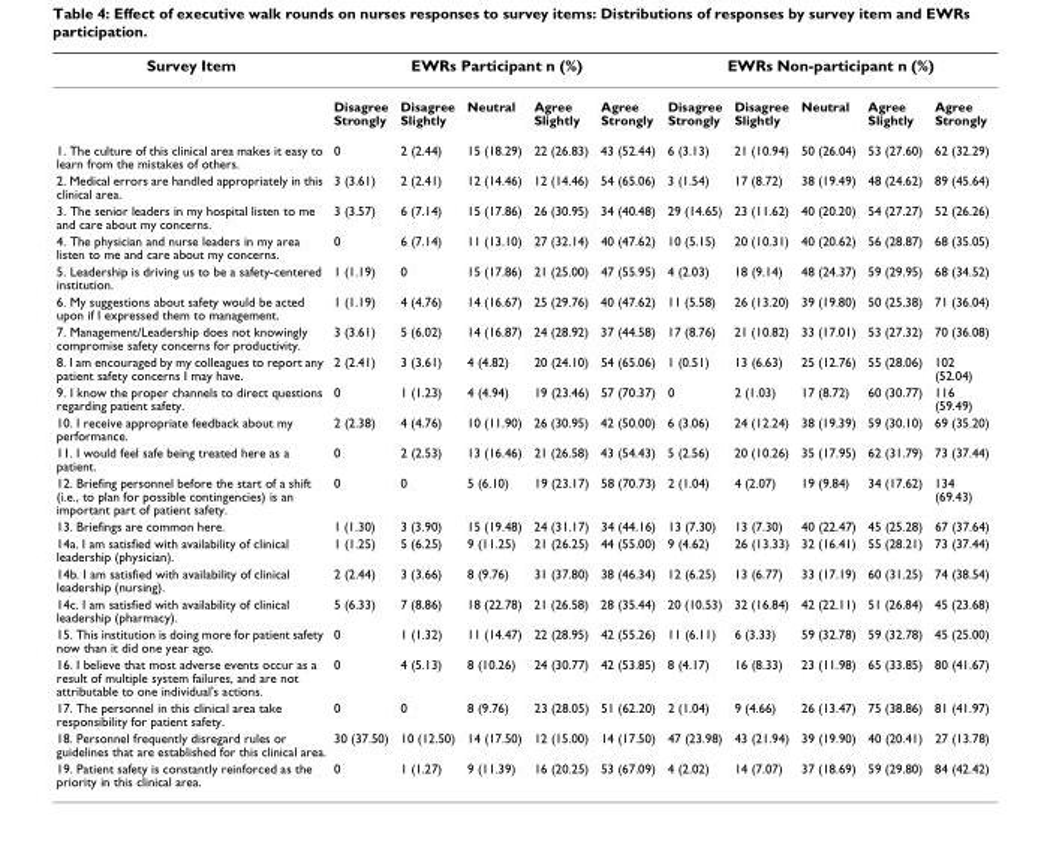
<table><thead><tr><td rowspan="2">Survey Item</td><td colspan="5">EWRs Participant n (%)</td><td colspan="5">EWRs Non-participant n (%)</td></tr><tr><td>Disagree Strongly</td><td>Disagree Slightly</td><td>Neutral</td><td>Agree Slightly</td><td>Agree Strongly</td><td>Disagree Strongly</td><td>Disagree Slightly</td><td>Neutral</td><td>Agree Slightly</td><td>Agree Strongly</td></tr></thead><tbody><tr><td>1. The culture of this clinical area makes it easy to learn from the mistakes of others.</td><td>0</td><td>2 (2.44)</td><td>15 (18.29)</td><td>22 (26.83)</td><td>43 (52.44)</td><td>6 (3.13)</td><td>21 (10.94)</td><td>50 (26.04)</td><td>53 (27.60)</td><td>62 (32.29)</td></tr><tr><td>2. Medical errors are handled appropriately in this clinical area.</td><td>3 (3.61)</td><td>2 (2.41)</td><td>12 (14.46)</td><td>12 (14.46)</td><td>54 (65.06)</td><td>3 (1.54)</td><td>17 (8.72)</td><td>38 (19.49)</td><td>48 (24.62)</td><td>89 (45.64)</td></tr><tr><td>3. The senior leaders in my hospital listen to me and care about my concerns.</td><td>3 (3.57)</td><td>6 (7.14)</td><td>15 (17.86)</td><td>26 (30.95)</td><td>34 (40.48)</td><td>29 (14.65)</td><td>23 (11.62)</td><td>40 (20.20)</td><td>54 (27.27)</td><td>52 (26.26)</td></tr><tr><td>4. The physician and nurse leaders in my area listen to me and care about my concerns.</td><td>0</td><td>6 (7.14)</td><td>11 (13.10)</td><td>27 (32.14)</td><td>40 (47.62)</td><td>10 (5.15)</td><td>20 (10.31)</td><td>40 (20.62)</td><td>56 (28.87)</td><td>68 (35.05)</td></tr><tr><td>5. Leadership is driving us to be a safety-centered institution.</td><td>1 (1.19)</td><td>0</td><td>15 (17.86)</td><td>21 (25.00)</td><td>47 (55.95)</td><td>4 (2.03)</td><td>18 (9.14)</td><td>48 (24.37)</td><td>59 (29.95)</td><td>68 (34.52)</td></tr><tr><td>6. My suggestions about safety would be acted upon if I expressed them to management.</td><td>1 (1.19)</td><td>4 (4.76)</td><td>14 (16.67)</td><td>25 (29.76)</td><td>40 (47.62)</td><td>11 (5.58)</td><td>26 (13.20)</td><td>39 (19.80)</td><td>50 (25.38)</td><td>71 (36.04)</td></tr><tr><td>7. Management/Leadership does not knowingly compromise safety concerns for productivity.</td><td>3 (3.61)</td><td>5 (6.02)</td><td>14 (16.87)</td><td>24 (28.92)</td><td>37 (44.58)</td><td>17 (8.76)</td><td>21 (10.82)</td><td>33 (17.01)</td><td>53 (27.32)</td><td>70 (36.08)</td></tr><tr><td>8. I am encouraged by my colleagues to report any patient safety concerns I may have.</td><td>2 (2.41)</td><td>3 (3.61)</td><td>4 (4.82)</td><td>20 (24.10)</td><td>54 (65.06)</td><td>1 (0.51)</td><td>13 (6.63)</td><td>25 (12.76)</td><td>55 (28.06)</td><td>102 (52.04)</td></tr><tr><td>9. I know the proper channels to direct questions regarding patient safety.</td><td>0</td><td>1 (1.23)</td><td>4 (4.94)</td><td>19 (23.46)</td><td>57 (70.37)</td><td>0</td><td>2 (1.03)</td><td>17 (8.72)</td><td>60 (30.77)</td><td>116 (59.49)</td></tr><tr><td>10. I receive appropriate feedback about my performance.</td><td>2 (2.38)</td><td>4 (4.76)</td><td>10 (11.90)</td><td>26 (30.95)</td><td>42 (50.00)</td><td>6 (3.06)</td><td>24 (12.24)</td><td>38 (19.39)</td><td>59 (30.10)</td><td>69 (35.20)</td></tr><tr><td>11. I would feel safe being treated here as a patient.</td><td>0</td><td>2 (2.53)</td><td>13 (16.46)</td><td>21 (26.58)</td><td>43 (54.43)</td><td>5 (2.56)</td><td>20 (10.26)</td><td>35 (17.95)</td><td>62 (31.79)</td><td>73 (37.44)</td></tr><tr><td>12. Briefing personnel before the start of a shift (i.e., to plan for possible contingencies) is an important part of patient safety.</td><td>0</td><td>0</td><td>5 (6.10)</td><td>19 (23.17)</td><td>58 (70.73)</td><td>2 (1.04)</td><td>4 (2.07)</td><td>19 (9.84)</td><td>34 (17.62)</td><td>134 (69.43)</td></tr><tr><td>13. Briefings are common here.</td><td>1 (1.30)</td><td>3 (3.90)</td><td>15 (19.48)</td><td>24 (31.17)</td><td>34 (44.16)</td><td>13 (7.30)</td><td>13 (7.30)</td><td>40 (22.47)</td><td>45 (25.28)</td><td>67 (37.64)</td></tr><tr><td>14a. I am satisfied with availability of clinical leadership (physician).</td><td>1 (1.25)</td><td>5 (6.25)</td><td>9 (11.25)</td><td>21 (26.25)</td><td>44 (55.00)</td><td>9 (4.62)</td><td>26 (13.33)</td><td>32 (16.41)</td><td>55 (28.21)</td><td>73 (37.44)</td></tr><tr><td>14b. I am satisfied with availability of clinical leadership (nursing).</td><td>2 (2.44)</td><td>3 (3.66)</td><td>8 (9.76)</td><td>31 (37.80)</td><td>38 (46.34)</td><td>12 (6.25)</td><td>13 (6.77)</td><td>33 (17.19)</td><td>60 (31.25)</td><td>74 (38.54)</td></tr><tr><td>14c. I am satisfied with availability of clinical leadership (pharmacy).</td><td>5 (6.33)</td><td>7 (8.86)</td><td>18 (22.78)</td><td>21 (26.58)</td><td>28 (35.44)</td><td>20 (10.53)</td><td>32 (16.84)</td><td>42 (22.11)</td><td>51 (26.84)</td><td>45 (23.68)</td></tr><tr><td>15. This institution is doing more for patient safety now than it did one year ago.</td><td>0</td><td>1 (1.32)</td><td>11 (14.47)</td><td>22 (28.95)</td><td>42 (55.26)</td><td>11 (6.11)</td><td>6 (3.33)</td><td>59 (32.78)</td><td>59 (32.78)</td><td>45 (25.00)</td></tr><tr><td>16. I believe that most adverse events occur as a result of multiple system failures, and are not attributable to one individual&#x27;s actions.</td><td>0</td><td>4 (5.13)</td><td>8 (10.26)</td><td>24 (30.77)</td><td>42 (53.85)</td><td>8 (4.17)</td><td>16 (8.33)</td><td>23 (11.98)</td><td>65 (33.85)</td><td>80 (41.67)</td></tr><tr><td>17. The personnel in this clinical area take responsibility for patient safety.</td><td>0</td><td>0</td><td>8 (9.76)</td><td>23 (28.05)</td><td>51 (62.20)</td><td>2 (1.04)</td><td>9 (4.66)</td><td>26 (13.47)</td><td>75 (38.86)</td><td>81 (41.97)</td></tr><tr><td>18. Personnel frequently disregard rules or guidelines that are established for this clinical area.</td><td>30 (37.50)</td><td>10 (12.50)</td><td>14 (17.50)</td><td>12 (15.00)</td><td>14 (17.50)</td><td>47 (23.98)</td><td>43 (21.94)</td><td>39 (19.90)</td><td>40 (20.41)</td><td>27 (13.78)</td></tr><tr><td>19. Patient safety is constantly reinforced as the priority in this clinical area.</td><td>0</td><td>1 (1.27)</td><td>9 (11.39)</td><td>16 (20.25)</td><td>53 (67.09)</td><td>4 (2.02)</td><td>14 (7.07)</td><td>37 (18.69)</td><td>59 (29.80)</td><td>84 (42.42)</td></tr></tbody></table>